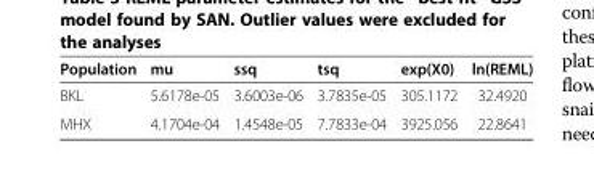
<table><thead><tr><td>Population</td><td>mu</td><td>ssq</td><td>tsq</td><td>exp(X0)</td><td>ln(REML)</td></tr></thead><tbody><tr><td>BKL</td><td>5.6178e-05</td><td>3.6003e-06</td><td>3.7835e-05</td><td>305.1172</td><td>32.4920</td></tr><tr><td>MHX</td><td>4.1704e-04</td><td>1.4548e-05</td><td>7.7833e-04</td><td>3925.056</td><td>22.8641</td></tr></tbody></table>